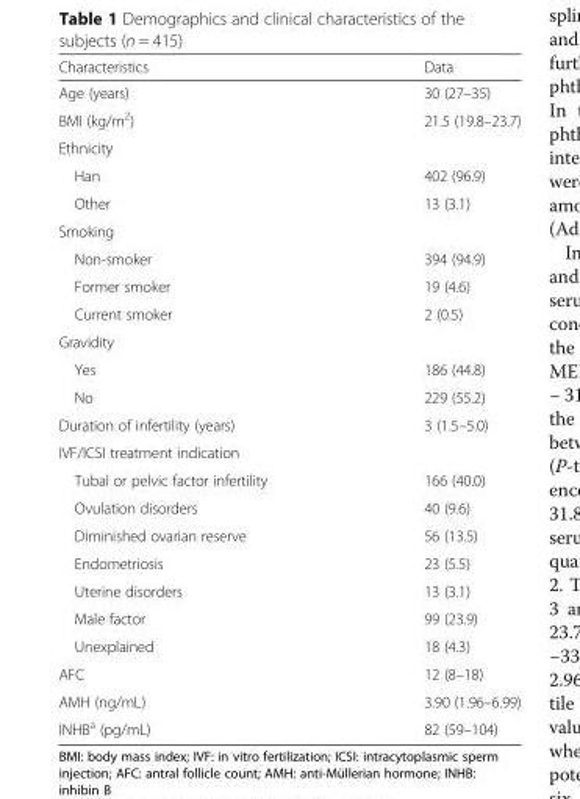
<table><thead><tr><td>Characteristics</td><td>Data</td></tr></thead><tbody><tr><td>Age (years)</td><td>30 (27–35)</td></tr><tr><td>BMI (kg/m<sup>2</sup>)</td><td>21.5 (19.8–23.7)</td></tr><tr><td colspan="2">Ethnicity</td></tr><tr><td>Han</td><td>402 (96.9)</td></tr><tr><td>Other</td><td>13 (3.1)</td></tr><tr><td colspan="2">Smoking</td></tr><tr><td>Non-smoker</td><td>394 (94.9)</td></tr><tr><td>Former smoker</td><td>19 (4.6)</td></tr><tr><td>Current smoker</td><td>2 (0.5)</td></tr><tr><td colspan="2">Gravidity</td></tr><tr><td>Yes</td><td>186 (44.8)</td></tr><tr><td>No</td><td>229 (55.2)</td></tr><tr><td>Duration of infertility (years)</td><td>3 (1.5–5.0)</td></tr><tr><td colspan="2">IVF/ICSI treatment indication</td></tr><tr><td>Tubal or pelvic factor infertility</td><td>166 (40.0)</td></tr><tr><td>Ovulation disorders</td><td>40 (9.6)</td></tr><tr><td>Diminished ovarian reserve</td><td>56 (13.5)</td></tr><tr><td>Endometriosis</td><td>23 (5.5)</td></tr><tr><td>Uterine disorders</td><td>13 (3.1)</td></tr><tr><td>Male factor</td><td>99 (23.9)</td></tr><tr><td>Unexplained</td><td>18 (4.3)</td></tr><tr><td>AFC</td><td>12 (8–18)</td></tr><tr><td>AMH (ng/mL)</td><td>3.90 (1.96–6.99)</td></tr><tr><td>INHB<sup>a</sup> (pg/mL)</td><td>82 (59–104)</td></tr></tbody></table>